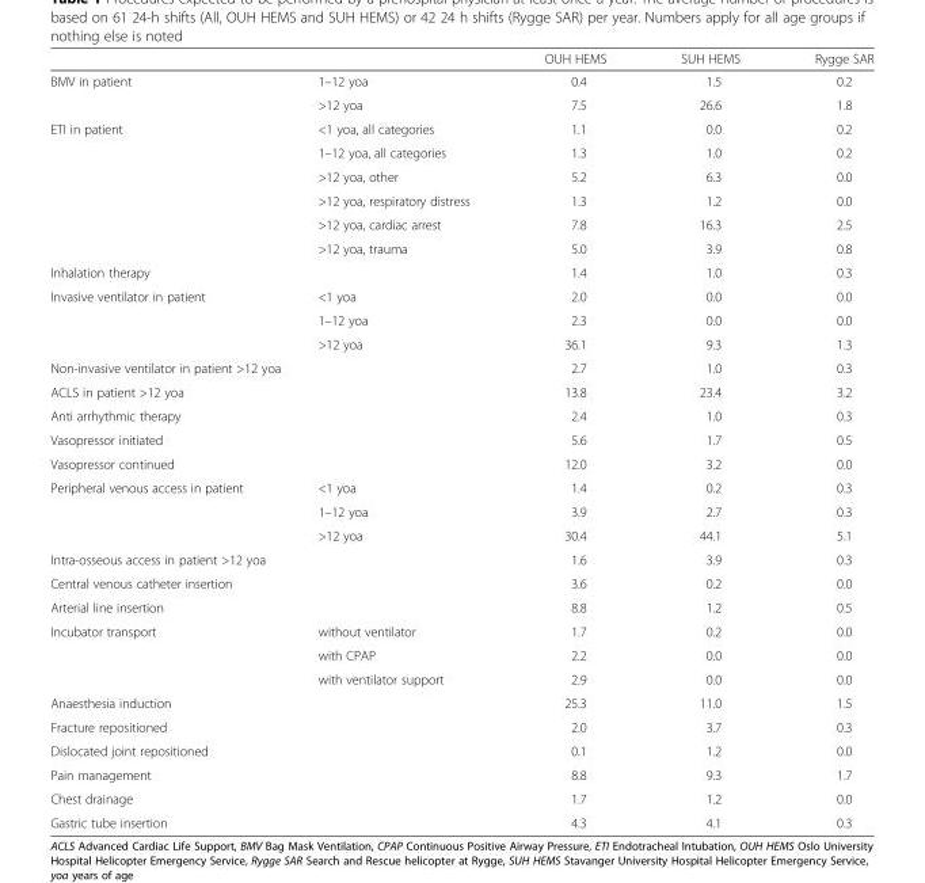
<table><thead><tr><td></td><td></td><td>OUH HEMS</td><td>SUH HEMS</td><td>Rygge SAR</td></tr></thead><tbody><tr><td rowspan="2">BMV in patient</td><td>1–12 yoa</td><td>0.4</td><td>1.5</td><td>0.2</td></tr><tr><td>&gt;12 yoa</td><td>7.5</td><td>26.6</td><td>1.8</td></tr><tr><td rowspan="6">ETI in patient</td><td>&lt;1 yoa, all categories</td><td>1.1</td><td>0.0</td><td>0.2</td></tr><tr><td>1–12 yoa, all categories</td><td>1.3</td><td>1.0</td><td>0.2</td></tr><tr><td>&gt;12 yoa, other</td><td>5.2</td><td>6.3</td><td>0.0</td></tr><tr><td>&gt;12 yoa, respiratory distress</td><td>1.3</td><td>1.2</td><td>0.0</td></tr><tr><td>&gt;12 yoa, cardiac arrest</td><td>7.8</td><td>16.3</td><td>2.5</td></tr><tr><td>&gt;12 yoa, trauma</td><td>5.0</td><td>3.9</td><td>0.8</td></tr><tr><td colspan="2">Inhalation therapy</td><td>1.4</td><td>1.0</td><td>0.3</td></tr><tr><td rowspan="3">Invasive ventilator in patient</td><td>&lt;1 yoa</td><td>2.0</td><td>0.0</td><td>0.0</td></tr><tr><td>1–12 yoa</td><td>2.3</td><td>0.0</td><td>0.0</td></tr><tr><td>&gt;12 yoa</td><td>36.1</td><td>9.3</td><td>1.3</td></tr><tr><td colspan="2">Non-invasive ventilator in patient &gt;12 yoa</td><td>2.7</td><td>1.0</td><td>0.3</td></tr><tr><td colspan="2">ACLS in patient &gt;12 yoa</td><td>13.8</td><td>23.4</td><td>3.2</td></tr><tr><td colspan="2">Anti arrhythmic therapy</td><td>2.4</td><td>1.0</td><td>0.3</td></tr><tr><td colspan="2">Vasopressor initiated</td><td>5.6</td><td>1.7</td><td>0.5</td></tr><tr><td colspan="2">Vasopressor continued</td><td>12.0</td><td>3.2</td><td>0.0</td></tr><tr><td rowspan="3">Peripheral venous access in patient</td><td>&lt;1 yoa</td><td>1.4</td><td>0.2</td><td>0.3</td></tr><tr><td>1–12 yoa</td><td>3.9</td><td>2.7</td><td>0.3</td></tr><tr><td>&gt;12 yoa</td><td>30.4</td><td>44.1</td><td>5.1</td></tr><tr><td colspan="2">Intra-osseous access in patient &gt;12 yoa</td><td>1.6</td><td>3.9</td><td>0.3</td></tr><tr><td colspan="2">Central venous catheter insertion</td><td>3.6</td><td>0.2</td><td>0.0</td></tr><tr><td colspan="2">Arterial line insertion</td><td>8.8</td><td>1.2</td><td>0.5</td></tr><tr><td rowspan="3">Incubator transport</td><td>without ventilator</td><td>1.7</td><td>0.2</td><td>0.0</td></tr><tr><td>with CPAP</td><td>2.2</td><td>0.0</td><td>0.0</td></tr><tr><td>with ventilator support</td><td>2.9</td><td>0.0</td><td>0.0</td></tr><tr><td colspan="2">Anaesthesia induction</td><td>25.3</td><td>11.0</td><td>1.5</td></tr><tr><td colspan="2">Fracture repositioned</td><td>2.0</td><td>3.7</td><td>0.3</td></tr><tr><td colspan="2">Dislocated joint repositioned</td><td>0.1</td><td>1.2</td><td>0.0</td></tr><tr><td colspan="2">Pain management</td><td>8.8</td><td>9.3</td><td>1.7</td></tr><tr><td colspan="2">Chest drainage</td><td>1.7</td><td>1.2</td><td>0.0</td></tr><tr><td colspan="2">Gastric tube insertion</td><td>4.3</td><td>4.1</td><td>0.3</td></tr></tbody></table>